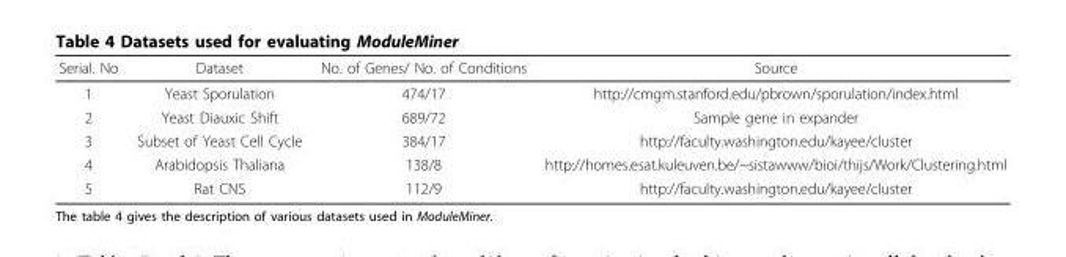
<table><thead><tr><td>Serial. No</td><td>Dataset</td><td>No. of Genes/ No. of Conditions</td><td>Source</td></tr></thead><tbody><tr><td>1</td><td>Yeast Sporulation</td><td>474/17</td><td>http://cmgm.stanford.edu/pbrown/sporulation/index.html</td></tr><tr><td>2</td><td>Yeast Diauxic Shift</td><td>689/72</td><td>Sample gene in expander</td></tr><tr><td>3</td><td>Subset of Yeast Cell Cycle</td><td>384/17</td><td>http://faculty.washington.edu/kayee/cluster</td></tr><tr><td>4</td><td>Arabidopsis Thaliana</td><td>138/8</td><td>http://homes.esat.kuleuven.be/~sistawww/bioi/thijs/Work/Clustering.html</td></tr><tr><td>5</td><td>Rat CNS</td><td>112/9</td><td>http://faculty.washington.edu/kayee/cluster</td></tr></tbody></table>